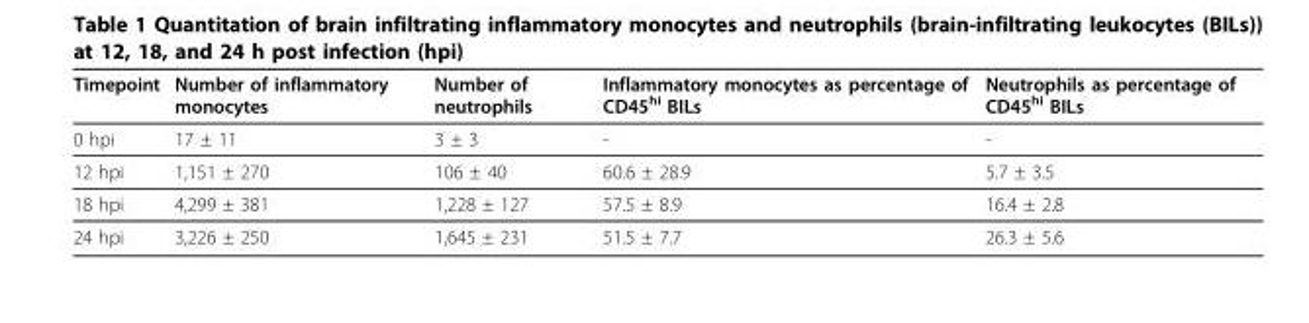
<table><thead><tr><td>Timepoint</td><td>Number of inflammatory monocytes</td><td>Number of neutrophils</td><td>Inflammatory monocytes as percentage of CD45<sup>hi</sup> BILs</td><td>Neutrophils as percentage of CD45<sup>hi</sup> BILs</td></tr></thead><tbody><tr><td>0 hpi</td><td>17 ± 11</td><td>3 ± 3</td><td>-</td><td>-</td></tr><tr><td>12 hpi</td><td>1,151 ± 270</td><td>106 ± 40</td><td>60.6 ± 28.9</td><td>5.7 ± 3.5</td></tr><tr><td>18 hpi</td><td>4,299 ± 381</td><td>1,228 ± 127</td><td>57.5 ± 8.9</td><td>16.4 ± 2.8</td></tr><tr><td>24 hpi</td><td>3,226 ± 250</td><td>1,645 ± 231</td><td>51.5 ± 7.7</td><td>26.3 ± 5.6</td></tr></tbody></table>